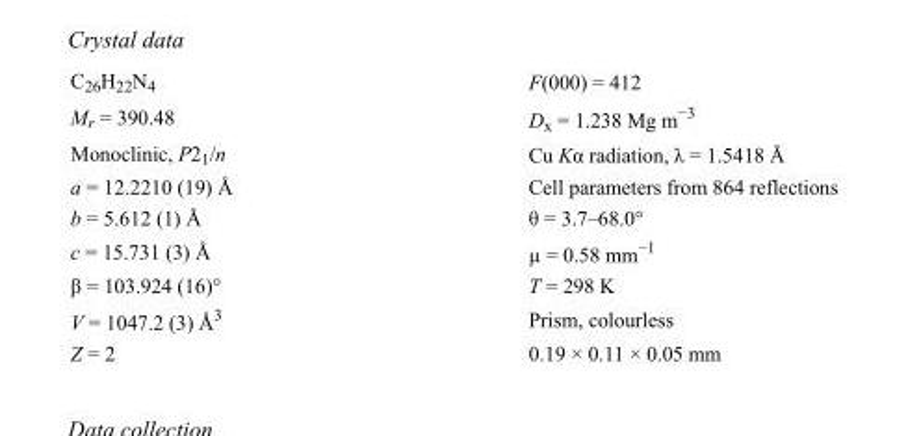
<table><tbody><tr><td>C<sub>26</sub>H<sub>22</sub>N<sub>4</sub></td><td>F(000) = 412</td></tr><tr><td>M<sub>r</sub> = 390.48</td><td>D<sub>x</sub> = 1.238 Mg m<sup>−3</sup></td></tr><tr><td>Monoclinic, P2<sub>1</sub>/n</td><td>Cu Kα radiation, λ = 1.5418 Å</td></tr><tr><td>a = 12.2210 (19) Å</td><td>Cell parameters from 864 reflections</td></tr><tr><td>b = 5.612 (1) Å</td><td>θ = 3.7–68.0°</td></tr><tr><td>c = 15.731 (3) Å</td><td>µ = 0.58 mm<sup>−1</sup></td></tr><tr><td>β = 103.924 (16)°</td><td>T = 298 K</td></tr><tr><td>V = 1047.2 (3) Å<sup>3</sup></td><td>Prism, colourless</td></tr><tr><td>Z = 2</td><td>0.19 × 0.11 × 0.05 mm</td></tr></tbody></table>